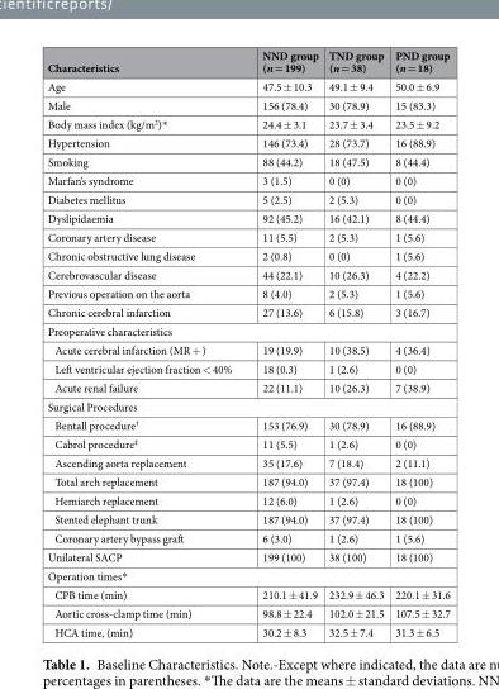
<table><thead><tr><td>Characteristics</td><td>NND group (n = 199)</td><td>TND group (n = 38)</td><td>PND group (n = 18)</td></tr></thead><tbody><tr><td>Age</td><td>47.5 ± 10.3</td><td>49.1 ± 9.4</td><td>50.0 ± 6.9</td></tr><tr><td>Male</td><td>156 (78.4)</td><td>30 (78.9)</td><td>15 (83.3)</td></tr><tr><td>Body mass index (kg/m<sup>2</sup>)*</td><td>24.4 ± 3.1</td><td>23.7 ± 3.4</td><td>23.5 ± 9.2</td></tr><tr><td>Hypertension</td><td>146 (73.4)</td><td>28 (73.7)</td><td>16 (88.9)</td></tr><tr><td>Smoking</td><td>88 (44.2)</td><td>18 (47.5)</td><td>8 (44.4)</td></tr><tr><td>Marfan’s syndrome</td><td>3 (1.5)</td><td>0 (0)</td><td>0 (0)</td></tr><tr><td>Diabetes mellitus</td><td>5 (2.5)</td><td>2 (5.3)</td><td>0 (0)</td></tr><tr><td>Dyslipidaemia</td><td>92 (45.2)</td><td>16 (42.1)</td><td>8 (44.4)</td></tr><tr><td>Coronary artery disease</td><td>11 (5.5)</td><td>2 (5.3)</td><td>1 (5.6)</td></tr><tr><td>Chronic obstructive lung disease</td><td>2 (0.8)</td><td>0 (0)</td><td>1 (5.6)</td></tr><tr><td>Cerebrovascular disease</td><td>44 (22.1)</td><td>10 (26.3)</td><td>4 (22.2)</td></tr><tr><td>Previous operation on the aorta</td><td>8 (4.0)</td><td>2 (5.3)</td><td>1 (5.6)</td></tr><tr><td>Chronic cerebral infarction</td><td>27 (13.6)</td><td>6 (15.8)</td><td>3 (16.7)</td></tr><tr><td colspan="4">Preoperative characteristics</td></tr><tr><td>Acute cerebral infarction (MR + )</td><td>19 (19.9)</td><td>10 (38.5)</td><td>4 (36.4)</td></tr><tr><td>Left ventricular ejection fraction &lt; 40%</td><td>18 (0.3)</td><td>1 (2.6)</td><td>0 (0)</td></tr><tr><td>Acute renal failure</td><td>22 (11.1)</td><td>10 (26.3)</td><td>7 (38.9)</td></tr><tr><td colspan="4">Surgical Procedures</td></tr><tr><td>Bentall procedure<sup>†</sup></td><td>153 (76.9)</td><td>30 (78.9)</td><td>16 (88.9)</td></tr><tr><td>Cabrol procedure<sup>‡</sup></td><td>11 (5.5)</td><td>1 (2.6)</td><td>0 (0)</td></tr><tr><td>Ascending aorta replacement</td><td>35 (17.6)</td><td>7 (18.4)</td><td>2 (11.1)</td></tr><tr><td>Total arch replacement</td><td>187 (94.0)</td><td>37 (97.4)</td><td>18 (100)</td></tr><tr><td>Hemiarch replacement</td><td>12 (6.0)</td><td>1 (2.6)</td><td>0 (0)</td></tr><tr><td>Stented elephant trunk</td><td>187 (94.0)</td><td>37 (97.4)</td><td>18 (100)</td></tr><tr><td>Coronary artery bypass graft</td><td>6 (3.0)</td><td>1 (2.6)</td><td>1 (5.6)</td></tr><tr><td>Unilateral SACP</td><td>199 (100)</td><td>38 (100)</td><td>18 (100)</td></tr><tr><td colspan="4">Operation times*</td></tr><tr><td>CPB time (min)</td><td>210.1 ± 41.9</td><td>232.9 ± 46.3</td><td>220.1 ± 31.6</td></tr><tr><td>Aortic cross-clamp time (min)</td><td>98.8 ± 22.4</td><td>102.0 ± 21.5</td><td>107.5 ± 32.7</td></tr><tr><td>HCA time, (min)</td><td>30.2 ± 8.3</td><td>32.5 ± 7.4</td><td>31.3 ± 6.5</td></tr></tbody></table>